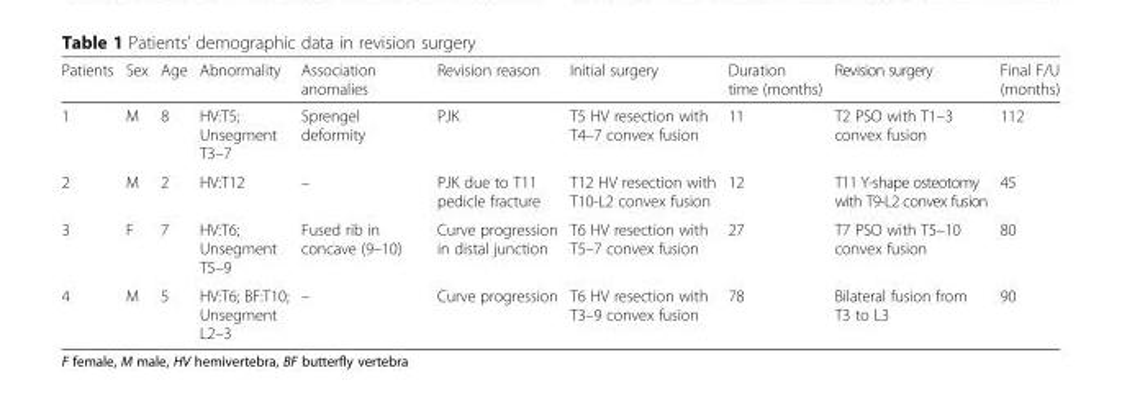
<table><thead><tr><td>Patients</td><td>Sex</td><td>Age</td><td>Abnormality</td><td>Association anomalies</td><td>Revision reason</td><td>Initial surgery</td><td>Duration time (months)</td><td>Revision surgery</td><td>Final F/U (months)</td></tr></thead><tbody><tr><td>1</td><td>M</td><td>8</td><td>HV:T5; Unsegment T3–7</td><td>Sprengel deformity</td><td>PJK</td><td>T5 HV resection with T4–7 convex fusion</td><td>11</td><td>T2 PSO with T1–3 convex fusion</td><td>112</td></tr><tr><td>2</td><td>M</td><td>2</td><td>HV:T12</td><td>–</td><td>PJK due to T11 pedicle fracture</td><td>T12 HV resection with T10-L2 convex fusion</td><td>12</td><td>T11 Y-shape osteotomy with T9-L2 convex fusion</td><td>45</td></tr><tr><td>3</td><td>F</td><td>7</td><td>HV:T6; Unsegment T5–9</td><td>Fused rib in concave (9–10)</td><td>Curve progression in distal junction</td><td>T6 HV resection with T5–7 convex fusion</td><td>27</td><td>T7 PSO with T5–10 convex fusion</td><td>80</td></tr><tr><td>4</td><td>M</td><td>5</td><td>HV:T6; BF:T10; Unsegment L2–3</td><td>–</td><td>Curve progression</td><td>T6 HV resection with T3–9 convex fusion</td><td>78</td><td>Bilateral fusion from T3 to L3</td><td>90</td></tr></tbody></table>